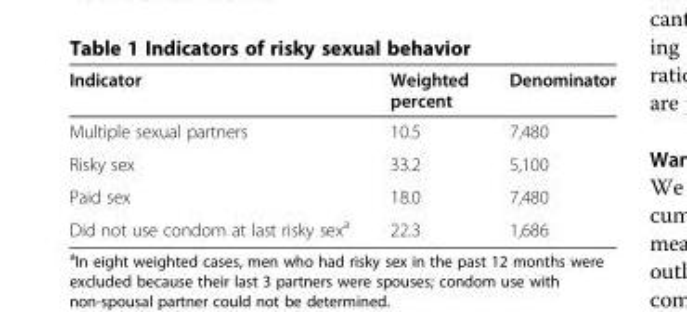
<table><thead><tr><td>Indicator</td><td>Weighted percent</td><td>Denominator</td></tr></thead><tbody><tr><td>Multiple sexual partners</td><td>10.5</td><td>7,480</td></tr><tr><td>Risky sex</td><td>33.2</td><td>5,100</td></tr><tr><td>Paid sex</td><td>18.0</td><td>7,480</td></tr><tr><td>Did not use condom at last risky sex<sup>a</sup></td><td>22.3</td><td>1,686</td></tr></tbody></table>